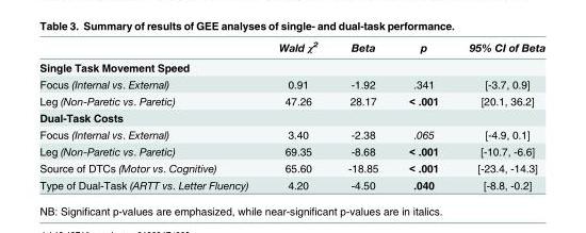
<table><thead><tr><td></td><td>Wald χ<sup>2</sup></td><td>Beta</td><td>p</td><td>95% CI of Beta</td></tr></thead><tbody><tr><td colspan="5">Single Task Movement Speed</td></tr><tr><td>Focus (Internal vs. External)</td><td>0.91</td><td>-1.92</td><td>.341</td><td>[-3.7, 0.9]</td></tr><tr><td>Leg (Non-Paretic vs. Paretic)</td><td>47.26</td><td>28.17</td><td>&lt; .001</td><td>[20.1, 36.2]</td></tr><tr><td colspan="5">Dual-Task Costs</td></tr><tr><td>Focus (Internal vs. External)</td><td>3.40</td><td>-2.38</td><td>.065</td><td>[-4.9, 0.1]</td></tr><tr><td>Leg (Non-Paretic vs. Paretic)</td><td>69.35</td><td>-8.68</td><td>&lt; .001</td><td>[-10.7, -6.6]</td></tr><tr><td>Source of DTCs (Motor vs. Cognitive)</td><td>65.60</td><td>-18.85</td><td>&lt; .001</td><td>[-23.4, -14.3]</td></tr><tr><td>Type of Dual-Task (ARTT vs. Letter Fluency)</td><td>4.20</td><td>-4.50</td><td>.040</td><td>[-8.8, -0.2]</td></tr></tbody></table>